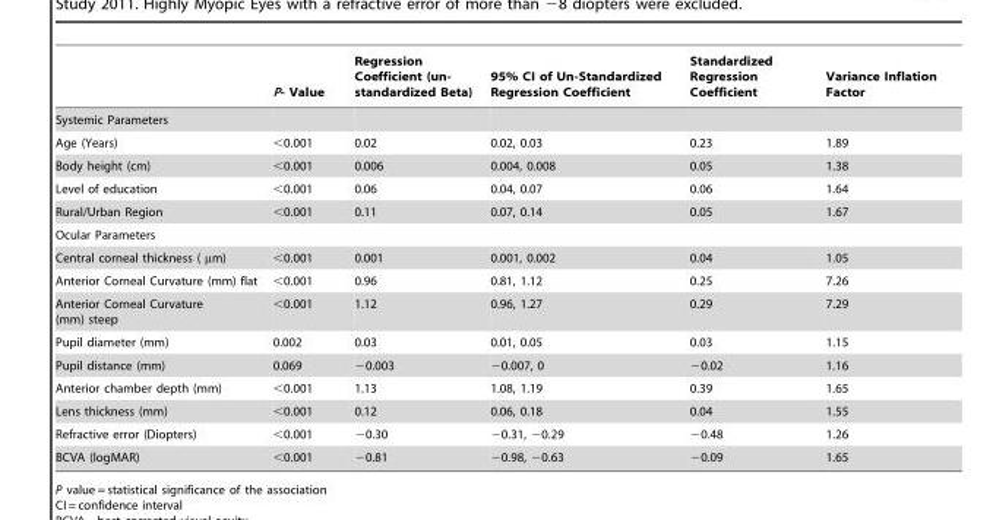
<table><thead><tr><td></td><td>P- Value</td><td>Regression Coefficient (un- standardized Beta)</td><td>95% CI of Un-Standardized Regression Coefficient</td><td>Standardized Regression Coefficient</td><td>Variance Inflation Factor</td></tr></thead><tbody><tr><td colspan="6">Systemic Parameters</td></tr><tr><td>Age (Years)</td><td>&lt;0.001</td><td>0.02</td><td>0.02, 0.03</td><td>0.23</td><td>1.89</td></tr><tr><td>Body height (cm)</td><td>&lt;0.001</td><td>0.006</td><td>0.004, 0.008</td><td>0.05</td><td>1.38</td></tr><tr><td>Level of education</td><td>&lt;0.001</td><td>0.06</td><td>0.04, 0.07</td><td>0.06</td><td>1.64</td></tr><tr><td>Rural/Urban Region</td><td>&lt;0.001</td><td>0.11</td><td>0.07, 0.14</td><td>0.05</td><td>1.67</td></tr><tr><td colspan="6">Ocular Parameters</td></tr><tr><td>Central corneal thickness ( µm)</td><td>&lt;0.001</td><td>0.001</td><td>0.001, 0.002</td><td>0.04</td><td>1.05</td></tr><tr><td>Anterior Corneal Curvature (mm) flat</td><td>&lt;0.001</td><td>0.96</td><td>0.81, 1.12</td><td>0.25</td><td>7.26</td></tr><tr><td>Anterior Corneal Curvature (mm) steep</td><td>&lt;0.001</td><td>1.12</td><td>0.96, 1.27</td><td>0.29</td><td>7.29</td></tr><tr><td>Pupil diameter (mm)</td><td>0.002</td><td>0.03</td><td>0.01, 0.05</td><td>0.03</td><td>1.15</td></tr><tr><td>Pupil distance (mm)</td><td>0.069</td><td>−0.003</td><td>−0.007, 0</td><td>−0.02</td><td>1.16</td></tr><tr><td>Anterior chamber depth (mm)</td><td>&lt;0.001</td><td>1.13</td><td>1.08, 1.19</td><td>0.39</td><td>1.65</td></tr><tr><td>Lens thickness (mm)</td><td>&lt;0.001</td><td>0.12</td><td>0.06, 0.18</td><td>0.04</td><td>1.55</td></tr><tr><td>Refractive error (Diopters)</td><td>&lt;0.001</td><td>−0.30</td><td>−0.31, −0.29</td><td>−0.48</td><td>1.26</td></tr><tr><td>BCVA (logMAR)</td><td>&lt;0.001</td><td>−0.81</td><td>−0.98, −0.63</td><td>−0.09</td><td>1.65</td></tr></tbody></table>